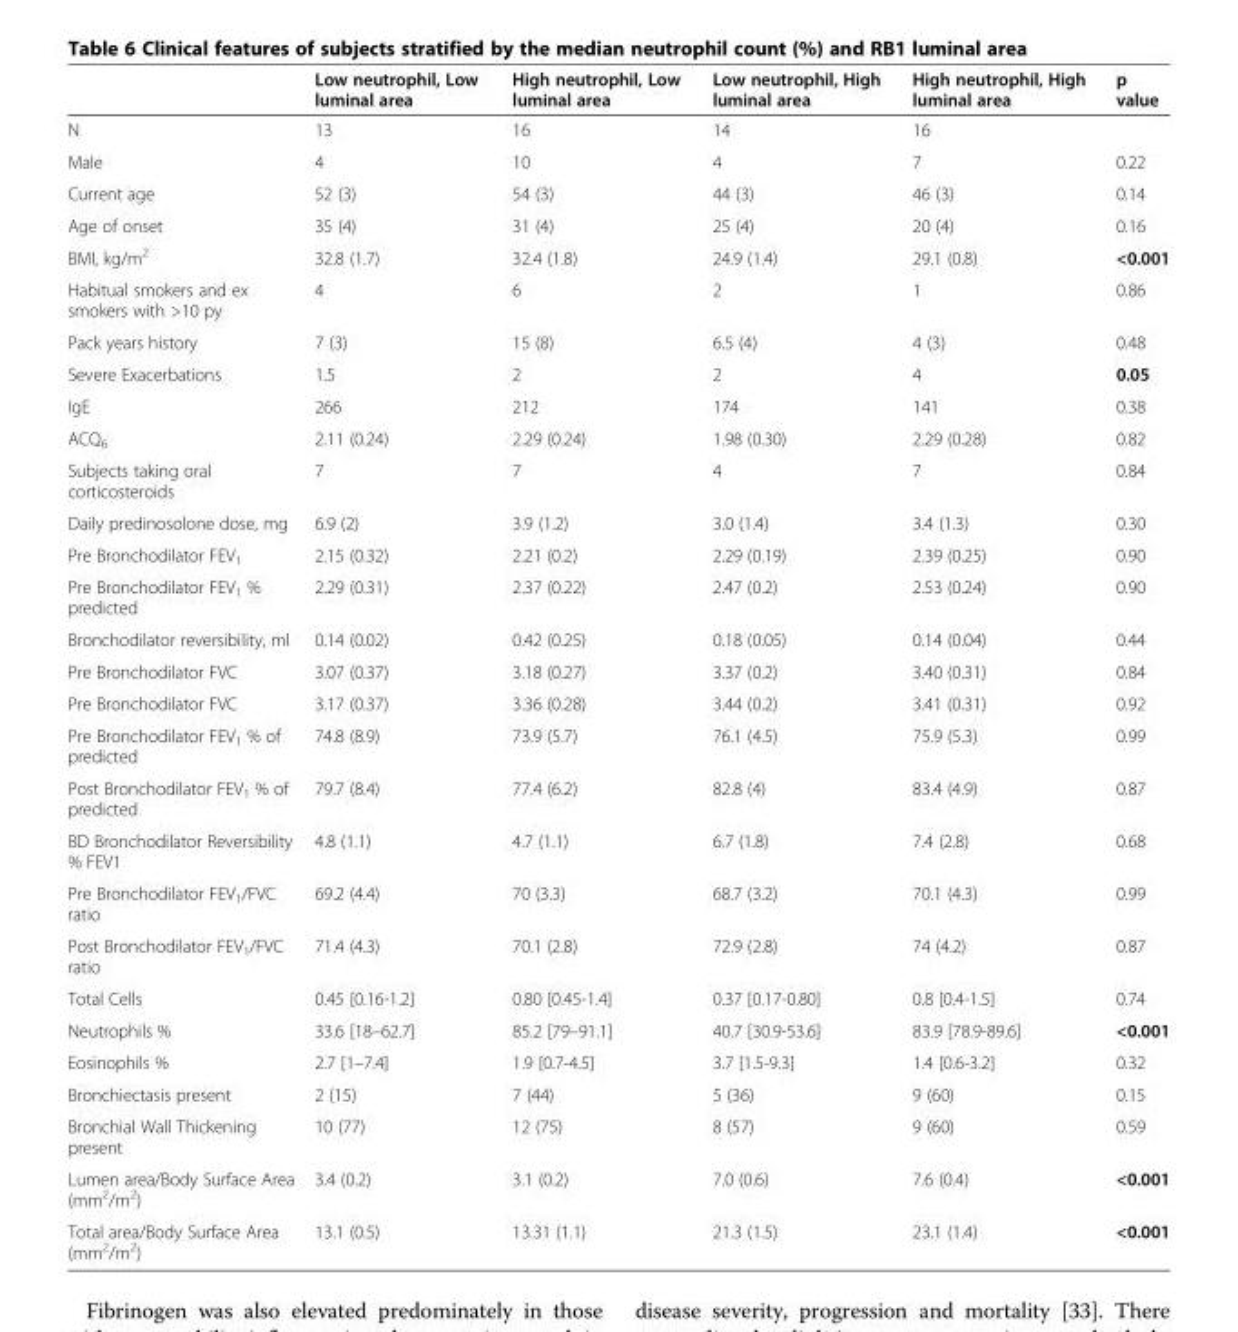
<table><thead><tr><td></td><td>Low neutrophil, Low luminal area</td><td>High neutrophil, Low luminal area</td><td>Low neutrophil, High luminal area</td><td>High neutrophil, High luminal area</td><td>p value</td></tr></thead><tbody><tr><td>N</td><td>13</td><td>16</td><td>14</td><td>16</td><td></td></tr><tr><td>Male</td><td>4</td><td>10</td><td>4</td><td>7</td><td>0.22</td></tr><tr><td>Current age</td><td>52 (3)</td><td>54 (3)</td><td>44 (3)</td><td>46 (3)</td><td>0.14</td></tr><tr><td>Age of onset</td><td>35 (4)</td><td>31 (4)</td><td>25 (4)</td><td>20 (4)</td><td>0.16</td></tr><tr><td>BMI, kg/m<sup>2</sup></td><td>32.8 (1.7)</td><td>32.4 (1.8)</td><td>24.9 (1.4)</td><td>29.1 (0.8)</td><td>&lt;0.001</td></tr><tr><td>Habitual smokers and ex smokers with &gt;10 py</td><td>4</td><td>6</td><td>2</td><td>1</td><td>0.86</td></tr><tr><td>Pack years history</td><td>7 (3)</td><td>15 (8)</td><td>6.5 (4)</td><td>4 (3)</td><td>0.48</td></tr><tr><td>Severe Exacerbations</td><td>1.5</td><td>2</td><td>2</td><td>4</td><td>0.05</td></tr><tr><td>IgE</td><td>266</td><td>212</td><td>174</td><td>141</td><td>0.38</td></tr><tr><td>ACQ<sub>6</sub></td><td>2.11 (0.24)</td><td>2.29 (0.24)</td><td>1.98 (0.30)</td><td>2.29 (0.28)</td><td>0.82</td></tr><tr><td>Subjects taking oral corticosteroids</td><td>7</td><td>7</td><td>4</td><td>7</td><td>0.84</td></tr><tr><td>Daily predinosolone dose, mg</td><td>6.9 (2)</td><td>3.9 (1.2)</td><td>3.0 (1.4)</td><td>3.4 (1.3)</td><td>0.30</td></tr><tr><td>Pre Bronchodilator FEV<sub>1</sub></td><td>2.15 (0.32)</td><td>2.21 (0.2)</td><td>2.29 (0.19)</td><td>2.39 (0.25)</td><td>0.90</td></tr><tr><td>Pre Bronchodilator FEV<sub>1</sub> % predicted</td><td>2.29 (0.31)</td><td>2.37 (0.22)</td><td>2.47 (0.2)</td><td>2.53 (0.24)</td><td>0.90</td></tr><tr><td>Bronchodilator reversibility, ml</td><td>0.14 (0.02)</td><td>0.42 (0.25)</td><td>0.18 (0.05)</td><td>0.14 (0.04)</td><td>0.44</td></tr><tr><td>Pre Bronchodilator FVC</td><td>3.07 (0.37)</td><td>3.18 (0.27)</td><td>3.37 (0.2)</td><td>3.40 (0.31)</td><td>0.84</td></tr><tr><td>Pre Bronchodilator FVC</td><td>3.17 (0.37)</td><td>3.36 (0.28)</td><td>3.44 (0.2)</td><td>3.41 (0.31)</td><td>0.92</td></tr><tr><td>Pre Bronchodilator FEV<sub>1</sub> % of predicted</td><td>74.8 (8.9)</td><td>73.9 (5.7)</td><td>76.1 (4.5)</td><td>75.9 (5.3)</td><td>0.99</td></tr><tr><td>Post Bronchodilator FEV<sub>1</sub> % of predicted</td><td>79.7 (8.4)</td><td>77.4 (6.2)</td><td>82.8 (4)</td><td>83.4 (4.9)</td><td>0.87</td></tr><tr><td>BD Bronchodilator Reversibility % FEV1</td><td>4.8 (1.1)</td><td>4.7 (1.1)</td><td>6.7 (1.8)</td><td>7.4 (2.8)</td><td>0.68</td></tr><tr><td>Pre Bronchodilator FEV<sub>1</sub>/FVC ratio</td><td>69.2 (4.4)</td><td>70 (3.3)</td><td>68.7 (3.2)</td><td>70.1 (4.3)</td><td>0.99</td></tr><tr><td>Post Bronchodilator FEV<sub>1</sub>/FVC ratio</td><td>71.4 (4.3)</td><td>70.1 (2.8)</td><td>72.9 (2.8)</td><td>74 (4.2)</td><td>0.87</td></tr><tr><td>Total Cells</td><td>0.45 [0.16-1.2]</td><td>0.80 [0.45-1.4]</td><td>0.37 [0.17-0.80]</td><td>0.8 [0.4-1.5]</td><td>0.74</td></tr><tr><td>Neutrophils %</td><td>33.6 [18–62.7]</td><td>85.2 [79–91.1]</td><td>40.7 [30.9-53.6]</td><td>83.9 [78.9-89.6]</td><td>&lt;0.001</td></tr><tr><td>Eosinophils %</td><td>2.7 [1–7.4]</td><td>1.9 [0.7-4.5]</td><td>3.7 [1.5-9.3]</td><td>1.4 [0.6-3.2]</td><td>0.32</td></tr><tr><td>Bronchiectasis present</td><td>2 (15)</td><td>7 (44)</td><td>5 (36)</td><td>9 (60)</td><td>0.15</td></tr><tr><td>Bronchial Wall Thickening present</td><td>10 (77)</td><td>12 (75)</td><td>8 (57)</td><td>9 (60)</td><td>0.59</td></tr><tr><td>Lumen area/Body Surface Area (mm<sup>2</sup>/m<sup>2</sup>)</td><td>3.4 (0.2)</td><td>3.1 (0.2)</td><td>7.0 (0.6)</td><td>7.6 (0.4)</td><td>&lt;0.001</td></tr><tr><td>Total area/Body Surface Area (mm<sup>2</sup>/m<sup>2</sup>)</td><td>13.1 (0.5)</td><td>13.31 (1.1)</td><td>21.3 (1.5)</td><td>23.1 (1.4)</td><td>&lt;0.001</td></tr></tbody></table>